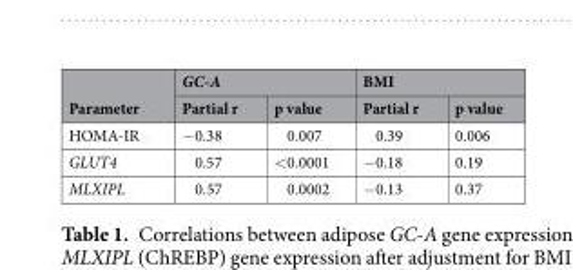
<table><thead><tr><td rowspan="2">Parameter</td><td colspan="2">GC-A</td><td colspan="2">BMI</td></tr><tr><td>Partial r</td><td>p value</td><td>Partial r</td><td>p value</td></tr></thead><tbody><tr><td>HOMA-IR</td><td>−0.38</td><td>0.007</td><td>0.39</td><td>0.006</td></tr><tr><td>GLUT4</td><td>0.57</td><td>&lt;0.0001</td><td>−0.18</td><td>0.19</td></tr><tr><td>MLXIPL</td><td>0.57</td><td>0.0002</td><td>−0.13</td><td>0.37</td></tr></tbody></table>